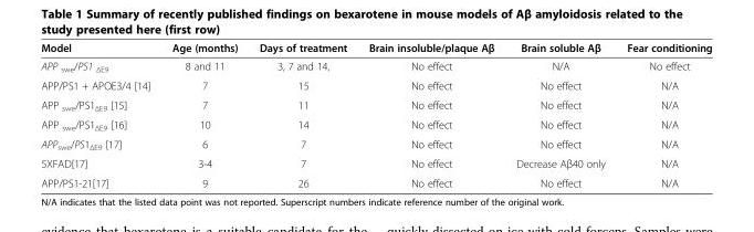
<table><thead><tr><td>Model</td><td>Age (months)</td><td>Days of treatment</td><td>Brain insoluble/plaque Aβ</td><td>Brain soluble Aβ</td><td>Fear conditioning</td></tr></thead><tbody><tr><td>APP swe/PS1 ΔE9</td><td>8 and 11</td><td>3, 7 and 14,</td><td>No effect</td><td>N/A</td><td>No effect</td></tr><tr><td>APP/PS1 + APOE3/4 [14]</td><td>7</td><td>15</td><td>No effect</td><td>No effect</td><td>N/A</td></tr><tr><td>APP swe/PS1ΔE9 [15]</td><td>7</td><td>11</td><td>No effect</td><td>No effect</td><td>N/A</td></tr><tr><td>APP swe/PS1ΔE9 [16]</td><td>10</td><td>14</td><td>No effect</td><td>No effect</td><td>N/A</td></tr><tr><td>APPswe/PS1ΔE9 [17]</td><td>6</td><td>7</td><td>No effect</td><td>No effect</td><td>N/A</td></tr><tr><td>5XFAD[17]</td><td>3-4</td><td>7</td><td>No effect</td><td>Decrease Aβ40 only</td><td>N/A</td></tr><tr><td>APP/PS1-21[17]</td><td>9</td><td>26</td><td>No effect</td><td>No effect</td><td>N/A</td></tr></tbody></table>